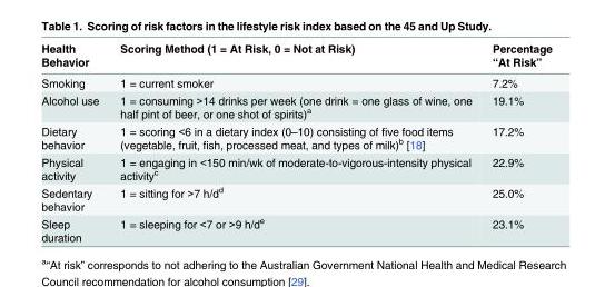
<table><thead><tr><td>Health Behavior</td><td>Scoring Method (1 = At Risk, 0 = Not at Risk)</td><td>Percentage “At Risk”</td></tr></thead><tbody><tr><td>Smoking</td><td>1 = current smoker</td><td>7.2%</td></tr><tr><td>Alcohol use</td><td>1 = consuming &gt;14 drinks per week (one drink = one glass of wine, one half pint of beer, or one shot of spirits)<sup>a</sup></td><td>19.1%</td></tr><tr><td>Dietary behavior</td><td>1 = scoring &lt;6 in a dietary index (0–10) consisting of five food items (vegetable, fruit, fish, processed meat, and types of milk)<sup>b</sup> [18]</td><td>17.2%</td></tr><tr><td>Physical activity</td><td>1 = engaging in &lt;150 min/wk of moderate-to-vigorous-intensity physical activity<sup>c</sup></td><td>22.9%</td></tr><tr><td>Sedentary behavior</td><td>1 = sitting for &gt;7 h/d<sup>d</sup></td><td>25.0%</td></tr><tr><td>Sleep duration</td><td>1 = sleeping for &lt;7 or &gt;9 h/d<sup>e</sup></td><td>23.1%</td></tr></tbody></table>